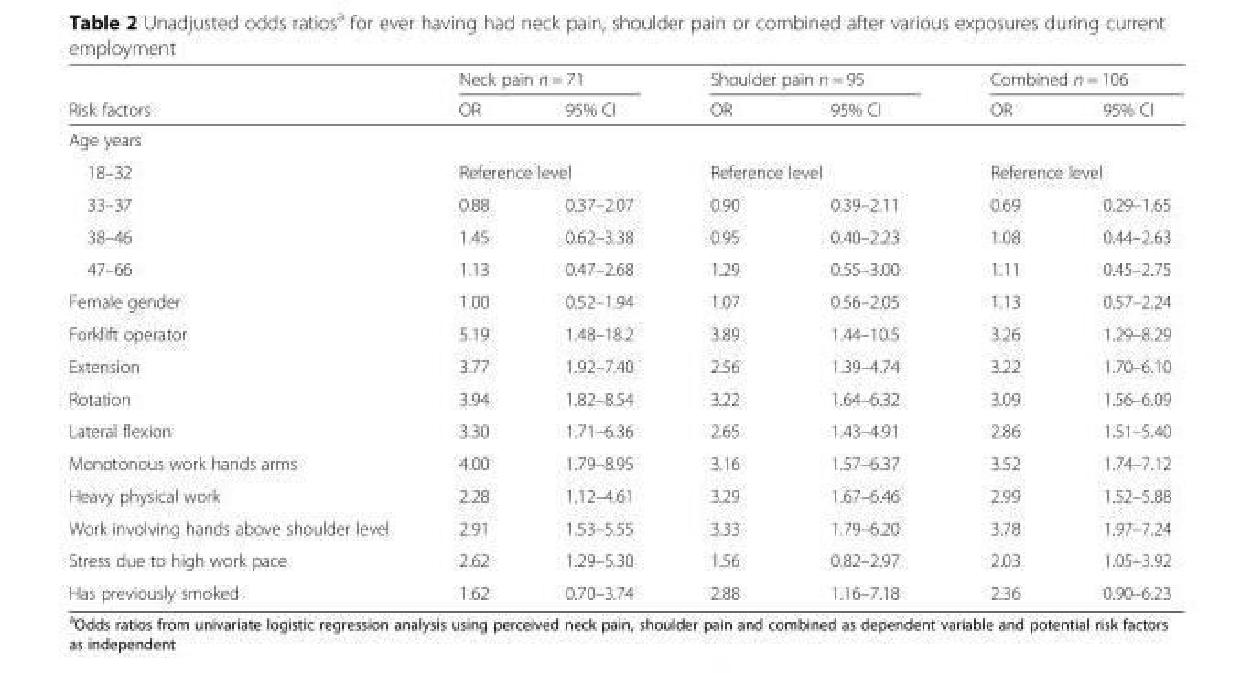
<table><thead><tr><td rowspan="2">Risk factors</td><td colspan="2">Neck pain n = 71</td><td colspan="2">Shoulder pain n = 95</td><td colspan="2">Combined n = 106</td></tr><tr><td>OR</td><td>95% CI</td><td>OR</td><td>95% CI</td><td>OR</td><td>95% CI</td></tr></thead><tbody><tr><td colspan="7">Age years</td></tr><tr><td>18–32</td><td colspan="2">Reference level</td><td colspan="2">Reference level</td><td colspan="2">Reference level</td></tr><tr><td>33–37</td><td>0.88</td><td>0.37–2.07</td><td>0.90</td><td>0.39–2.11</td><td>0.69</td><td>0.29–1.65</td></tr><tr><td>38–46</td><td>1.45</td><td>0.62–3.38</td><td>0.95</td><td>0.40–2.23</td><td>1.08</td><td>0.44–2.63</td></tr><tr><td>47–66</td><td>1.13</td><td>0.47–2.68</td><td>1.29</td><td>0.55–3.00</td><td>1.11</td><td>0.45–2.75</td></tr><tr><td>Female gender</td><td>1.00</td><td>0.52–1.94</td><td>1.07</td><td>0.56–2.05</td><td>1.13</td><td>0.57–2.24</td></tr><tr><td>Forklift operator</td><td>5.19</td><td>1.48–18.2</td><td>3.89</td><td>1.44–10.5</td><td>3.26</td><td>1.29–8.29</td></tr><tr><td>Extension</td><td>3.77</td><td>1.92–7.40</td><td>2.56</td><td>1.39–4.74</td><td>3.22</td><td>1.70–6.10</td></tr><tr><td>Rotation</td><td>3.94</td><td>1.82–8.54</td><td>3.22</td><td>1.64–6.32</td><td>3.09</td><td>1.56–6.09</td></tr><tr><td>Lateral flexion</td><td>3.30</td><td>1.71–6.36</td><td>2.65</td><td>1.43–4.91</td><td>2.86</td><td>1.51–5.40</td></tr><tr><td>Monotonous work hands arms</td><td>4.00</td><td>1.79–8.95</td><td>3.16</td><td>1.57–6.37</td><td>3.52</td><td>1.74–7.12</td></tr><tr><td>Heavy physical work</td><td>2.28</td><td>1.12–4.61</td><td>3.29</td><td>1.67–6.46</td><td>2.99</td><td>1.52–5.88</td></tr><tr><td>Work involving hands above shoulder level</td><td>2.91</td><td>1.53–5.55</td><td>3.33</td><td>1.79–6.20</td><td>3.78</td><td>1.97–7.24</td></tr><tr><td>Stress due to high work pace</td><td>2.62</td><td>1.29–5.30</td><td>1.56</td><td>0.82–2.97</td><td>2.03</td><td>1.05–3.92</td></tr><tr><td>Has previously smoked</td><td>1.62</td><td>0.70–3.74</td><td>2.88</td><td>1.16–7.18</td><td>2.36</td><td>0.90–6.23</td></tr></tbody></table>